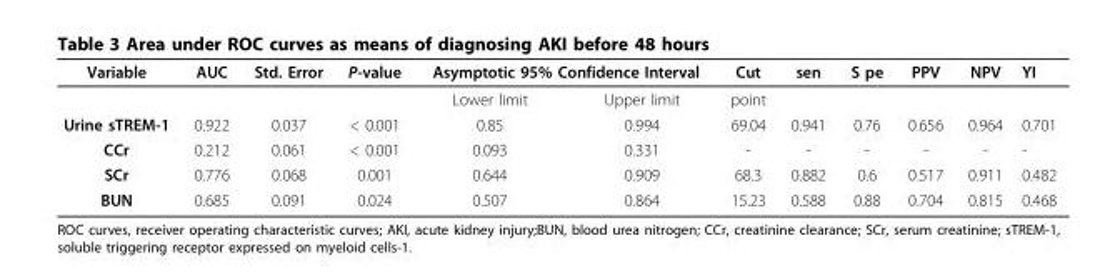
<table><thead><tr><td rowspan="2">Variable</td><td rowspan="2">AUC</td><td rowspan="2">Std. Error</td><td rowspan="2">P-value</td><td colspan="2">Asymptotic 95% Confidence Interval</td><td rowspan="2">Cut point</td><td rowspan="2">sen</td><td rowspan="2">S pe</td><td rowspan="2">PPV</td><td rowspan="2">NPV</td><td rowspan="2">YI</td></tr><tr><td>Lower limit</td><td>Upper limit</td></tr></thead><tbody><tr><td>Urine sTREM-1</td><td>0.922</td><td>0.037</td><td>&lt; 0.001</td><td>0.85</td><td>0.994</td><td>69.04</td><td>0.941</td><td>0.76</td><td>0.656</td><td>0.964</td><td>0.701</td></tr><tr><td>CCr</td><td>0.212</td><td>0.061</td><td>&lt; 0.001</td><td>0.093</td><td>0.331</td><td>-</td><td>-</td><td>-</td><td>-</td><td>-</td><td>-</td></tr><tr><td>SCr</td><td>0.776</td><td>0.068</td><td>0.001</td><td>0.644</td><td>0.909</td><td>68.3</td><td>0.882</td><td>0.6</td><td>0.517</td><td>0.911</td><td>0.482</td></tr><tr><td>BUN</td><td>0.685</td><td>0.091</td><td>0.024</td><td>0.507</td><td>0.864</td><td>15.23</td><td>0.588</td><td>0.88</td><td>0.704</td><td>0.815</td><td>0.468</td></tr></tbody></table>